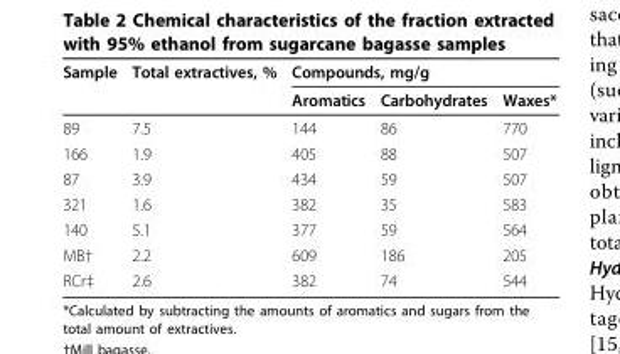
<table><thead><tr><td rowspan="2">Sample</td><td rowspan="2">Total extractives, %</td><td colspan="3">Compounds, mg/g</td></tr><tr><td>Aromatics</td><td>Carbohydrates</td><td>Waxes*</td></tr></thead><tbody><tr><td>89</td><td>7.5</td><td>144</td><td>86</td><td>770</td></tr><tr><td>166</td><td>1.9</td><td>405</td><td>88</td><td>507</td></tr><tr><td>87</td><td>3.9</td><td>434</td><td>59</td><td>507</td></tr><tr><td>321</td><td>1.6</td><td>382</td><td>35</td><td>583</td></tr><tr><td>140</td><td>5.1</td><td>377</td><td>59</td><td>564</td></tr><tr><td>MB†</td><td>2.2</td><td>609</td><td>186</td><td>205</td></tr><tr><td>RCr‡</td><td>2.6</td><td>382</td><td>74</td><td>544</td></tr></tbody></table>